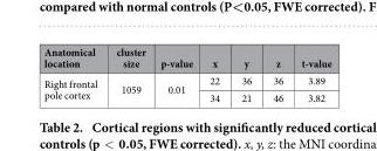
<table><thead><tr><td>Anatomical location</td><td>cluster size</td><td>p-value</td><td>x</td><td>y</td><td>z</td><td>t-value</td></tr></thead><tbody><tr><td rowspan="2">Right frontal pole cortex</td><td rowspan="2">1059</td><td rowspan="2">0.01</td><td>22</td><td>36</td><td>36</td><td>3.89</td></tr><tr><td>34</td><td>21</td><td>46</td><td>3.82</td></tr></tbody></table>